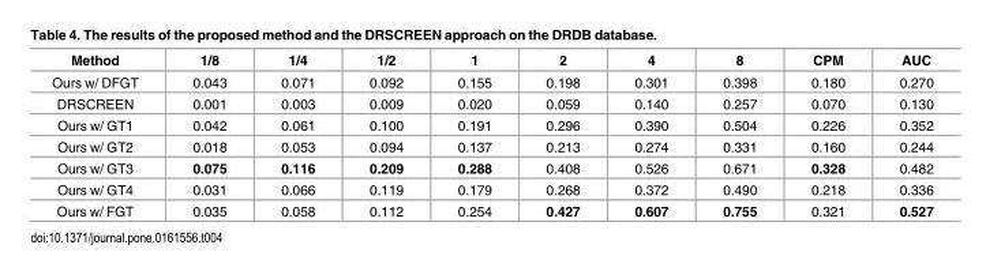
<table><thead><tr><td>Method</td><td>1/8</td><td>1/4</td><td>1/2</td><td>1</td><td>2</td><td>4</td><td>8</td><td>CPM</td><td>AUC</td></tr></thead><tbody><tr><td>Ours w/ DFGT</td><td>0.043</td><td>0.071</td><td>0.092</td><td>0.155</td><td>0.198</td><td>0.301</td><td>0.398</td><td>0.180</td><td>0.270</td></tr><tr><td>DRSCREEN</td><td>0.001</td><td>0.003</td><td>0.009</td><td>0.020</td><td>0.059</td><td>0.140</td><td>0.257</td><td>0.070</td><td>0.130</td></tr><tr><td>Ours w/ GT1</td><td>0.042</td><td>0.061</td><td>0.100</td><td>0.191</td><td>0.296</td><td>0.390</td><td>0.504</td><td>0.226</td><td>0.352</td></tr><tr><td>Ours w/ GT2</td><td>0.018</td><td>0.053</td><td>0.094</td><td>0.137</td><td>0.213</td><td>0.274</td><td>0.331</td><td>0.160</td><td>0.244</td></tr><tr><td>Ours w/ GT3</td><td>0.075</td><td>0.116</td><td>0.209</td><td>0.288</td><td>0.408</td><td>0.526</td><td>0.671</td><td>0.328</td><td>0.482</td></tr><tr><td>Ours w/ GT4</td><td>0.031</td><td>0.066</td><td>0.119</td><td>0.179</td><td>0.268</td><td>0.372</td><td>0.490</td><td>0.218</td><td>0.336</td></tr><tr><td>Ours w/ FGT</td><td>0.035</td><td>0.058</td><td>0.112</td><td>0.254</td><td>0.427</td><td>0.607</td><td>0.755</td><td>0.321</td><td>0.527</td></tr></tbody></table>